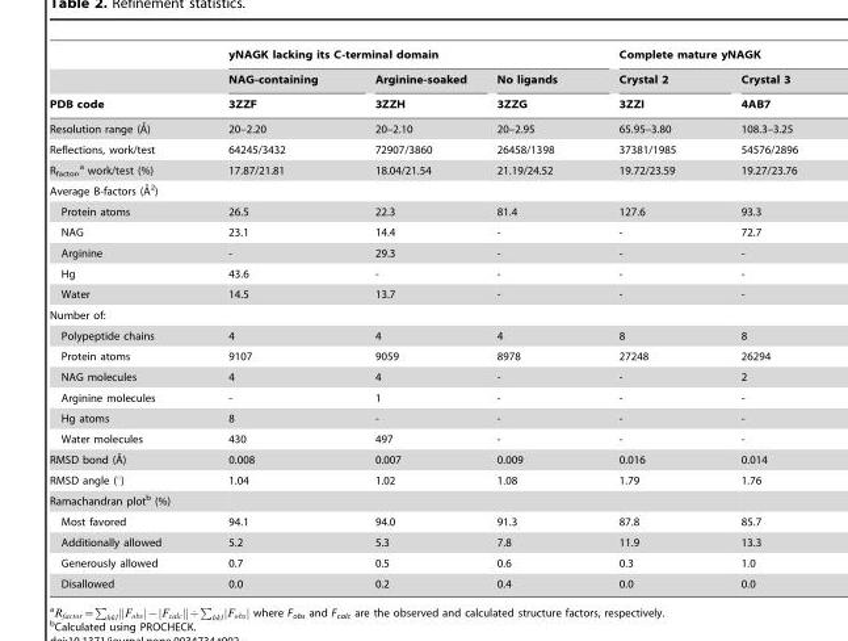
<table><thead><tr><td rowspan="3">PDB code</td><td colspan="3">yNAGK lacking its C-terminal domain</td><td colspan="2">Complete mature yNAGK</td></tr><tr><td rowspan="2">NAG-containing 3ZZF</td><td rowspan="2">Arginine-soaked 3ZZH</td><td rowspan="2">No ligands 3ZZG</td><td rowspan="2">Crystal 2 3ZZI</td><td rowspan="2">Crystal 3 4AB7</td></tr><tr></tr></thead><tbody><tr><td>Resolution range (A˚)</td><td>20–2.20</td><td>20–2.10</td><td>20–2.95</td><td>65.95–3.80</td><td>108.3–3.25</td></tr><tr><td>Reflections, work/test</td><td>64245/3432</td><td>72907/3860</td><td>26458/1398</td><td>37381/1985</td><td>54576/2896</td></tr><tr><td>R<sub>factor</sub>,<sup>a</sup> work/test (%)</td><td>17.87/21.81</td><td>18.04/21.54</td><td>21.19/24.52</td><td>19.72/23.59</td><td>19.27/23.76</td></tr><tr><td colspan="6">Average B-factors (A˚ 2)</td></tr><tr><td>Protein atoms</td><td>26.5</td><td>22.3</td><td>81.4</td><td>127.6</td><td>93.3</td></tr><tr><td>NAG</td><td>23.1</td><td>14.4</td><td>-</td><td>-</td><td>72.7</td></tr><tr><td>Arginine</td><td>-</td><td>29.3</td><td>-</td><td>-</td><td>-</td></tr><tr><td>Hg</td><td>43.6</td><td>-</td><td>-</td><td>-</td><td>-</td></tr><tr><td>Water</td><td>14.5</td><td>13.7</td><td>-</td><td>-</td><td>-</td></tr><tr><td colspan="6">Number of:</td></tr><tr><td>Polypeptide chains</td><td>4</td><td>4</td><td>4</td><td>8</td><td>8</td></tr><tr><td>Protein atoms</td><td>9107</td><td>9059</td><td>8978</td><td>27248</td><td>26294</td></tr><tr><td>NAG molecules</td><td>4</td><td>4</td><td>-</td><td>-</td><td>2</td></tr><tr><td>Arginine molecules</td><td>-</td><td>1</td><td>-</td><td>-</td><td>-</td></tr><tr><td>Hg atoms</td><td>8</td><td>-</td><td>-</td><td>-</td><td>-</td></tr><tr><td>Water molecules</td><td>430</td><td>497</td><td>-</td><td>-</td><td>-</td></tr><tr><td>RMSD bond (A˚)</td><td>0.008</td><td>0.007</td><td>0.009</td><td>0.016</td><td>0.014</td></tr><tr><td>RMSD angle (°)</td><td>1.04</td><td>1.02</td><td>1.08</td><td>1.79</td><td>1.76</td></tr><tr><td colspan="6">Ramachandran plot<sup>b</sup> (%)</td></tr><tr><td>Most favored</td><td>94.1</td><td>94.0</td><td>91.3</td><td>87.8</td><td>85.7</td></tr><tr><td>Additionally allowed</td><td>5.2</td><td>5.3</td><td>7.8</td><td>11.9</td><td>13.3</td></tr><tr><td>Generously allowed</td><td>0.7</td><td>0.5</td><td>0.6</td><td>0.3</td><td>1.0</td></tr><tr><td>Disallowed</td><td>0.0</td><td>0.2</td><td>0.4</td><td>0.0</td><td>0.0</td></tr></tbody></table>